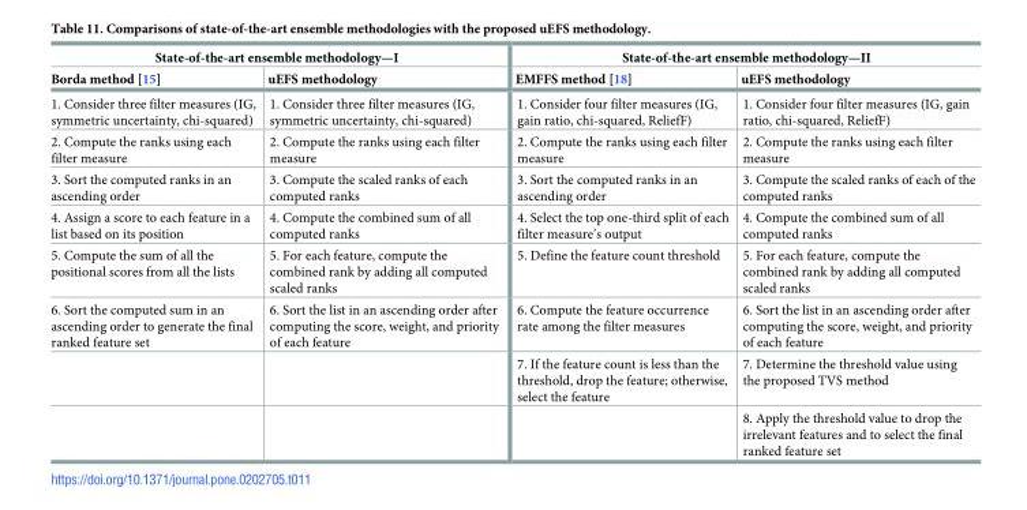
<table><thead><tr><td colspan="2">State-of-the-art ensemble methodology—I</td><td colspan="2">State-of-the-art ensemble methodology—II</td></tr><tr><td>Borda method [15]</td><td>uEFS methodology</td><td>EMFFS method [18]</td><td>uEFS methodology</td></tr></thead><tbody><tr><td>1. Consider three filter measures (IG, symmetric uncertainty, chi-squared)</td><td>1. Consider three filter measures (IG, symmetric uncertainty, chi-squared)</td><td>1. Consider four filter measures (IG, gain ratio, chi-squared, ReliefF)</td><td>1. Consider four filter measures (IG, gain ratio, chi-squared, ReliefF)</td></tr><tr><td>2. Compute the ranks using each filter measure</td><td>2. Compute the ranks using each filter measure</td><td>2. Compute the ranks using each filter measure</td><td>2. Compute the ranks using each filter measure</td></tr><tr><td>3. Sort the computed ranks in an ascending order</td><td>3. Compute the scaled ranks of each computed ranks</td><td>3. Sort the computed ranks in an ascending order</td><td>3. Compute the scaled ranks of each of the computed ranks</td></tr><tr><td>4. Assign a score to each feature in a list based on its position</td><td>4. Compute the combined sum of all computed ranks</td><td>4. Select the top one-third split of each filter measure’s output</td><td>4. Compute the combined sum of all computed ranks</td></tr><tr><td>5. Compute the sum of all the positional scores from all the lists</td><td>5. For each feature, compute the combined rank by adding all computed scaled ranks</td><td>5. Define the feature count threshold</td><td>5. For each feature, compute the combined rank by adding all computed scaled ranks</td></tr><tr><td rowspan="3">6. Sort the computed sum in an ascending order to generate the final ranked feature set</td><td>6. Sort the list in an ascending order after computing the score, weight, and priority of each feature</td><td>6. Compute the feature occurrence rate among the filter measures</td><td>6. Sort the list in an ascending order after computing the score, weight, and priority of each feature</td></tr><tr><td></td><td>7. If the feature count is less than the threshold, drop the feature; otherwise, select the feature</td><td>7. Determine the threshold value using the proposed TVS method</td></tr><tr><td></td><td></td><td>8. Apply the threshold value to drop the irrelevant features and to select the final ranked feature set</td></tr></tbody></table>